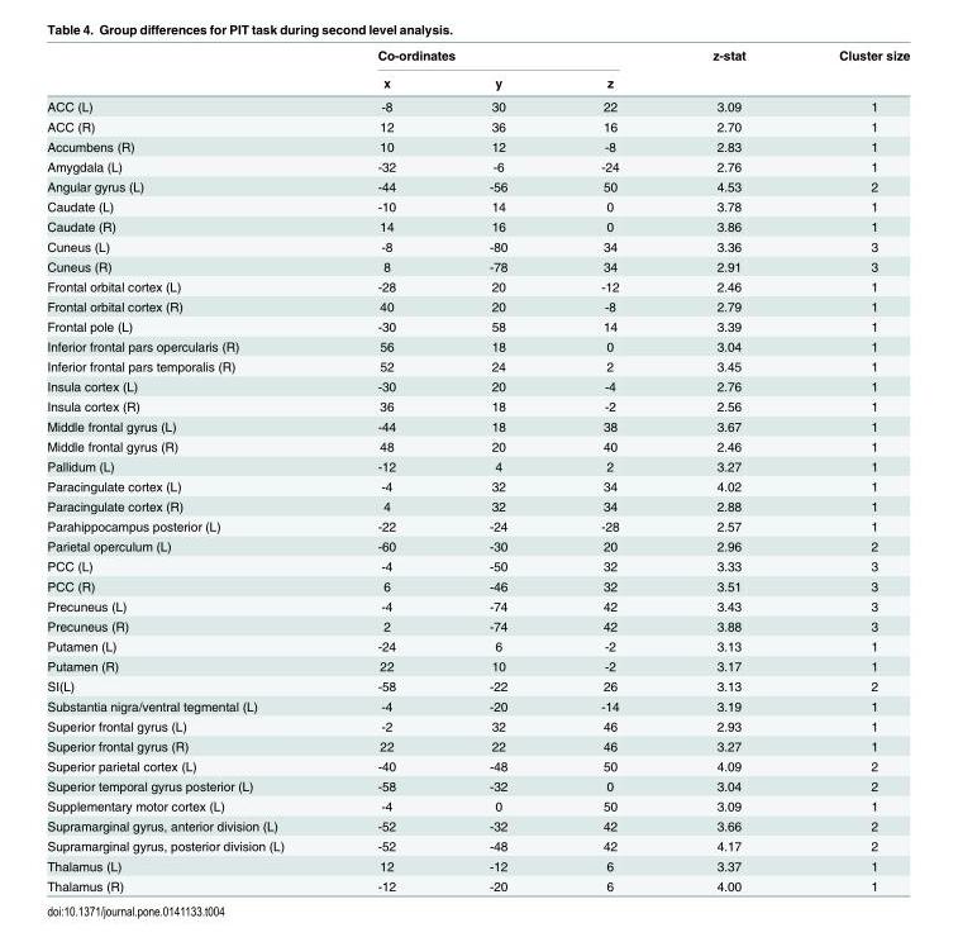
<table><thead><tr><td rowspan="2"></td><td colspan="3">Co-ordinates</td><td rowspan="2">z-stat</td><td rowspan="2">Cluster size</td></tr><tr><td>x</td><td>y</td><td>z</td></tr></thead><tbody><tr><td>ACC (L)</td><td>-8</td><td>30</td><td>22</td><td>3.09</td><td>1</td></tr><tr><td>ACC (R)</td><td>12</td><td>36</td><td>16</td><td>2.70</td><td>1</td></tr><tr><td>Accumbens (R)</td><td>10</td><td>12</td><td>-8</td><td>2.83</td><td>1</td></tr><tr><td>Amygdala (L)</td><td>-32</td><td>-6</td><td>-24</td><td>2.76</td><td>1</td></tr><tr><td>Angular gyrus (L)</td><td>-44</td><td>-56</td><td>50</td><td>4.53</td><td>2</td></tr><tr><td>Caudate (L)</td><td>-10</td><td>14</td><td>0</td><td>3.78</td><td>1</td></tr><tr><td>Caudate (R)</td><td>14</td><td>16</td><td>0</td><td>3.86</td><td>1</td></tr><tr><td>Cuneus (L)</td><td>-8</td><td>-80</td><td>34</td><td>3.36</td><td>3</td></tr><tr><td>Cuneus (R)</td><td>8</td><td>-78</td><td>34</td><td>2.91</td><td>3</td></tr><tr><td>Frontal orbital cortex (L)</td><td>-28</td><td>20</td><td>-12</td><td>2.46</td><td>1</td></tr><tr><td>Frontal orbital cortex (R)</td><td>40</td><td>20</td><td>-8</td><td>2.79</td><td>1</td></tr><tr><td>Frontal pole (L)</td><td>-30</td><td>58</td><td>14</td><td>3.39</td><td>1</td></tr><tr><td>Inferior frontal pars opercularis (R)</td><td>56</td><td>18</td><td>0</td><td>3.04</td><td>1</td></tr><tr><td>Inferior frontal pars temporalis (R)</td><td>52</td><td>24</td><td>2</td><td>3.45</td><td>1</td></tr><tr><td>Insula cortex (L)</td><td>-30</td><td>20</td><td>-4</td><td>2.76</td><td>1</td></tr><tr><td>Insula cortex (R)</td><td>36</td><td>18</td><td>-2</td><td>2.56</td><td>1</td></tr><tr><td>Middle frontal gyrus (L)</td><td>-44</td><td>18</td><td>38</td><td>3.67</td><td>1</td></tr><tr><td>Middle frontal gyrus (R)</td><td>48</td><td>20</td><td>40</td><td>2.46</td><td>1</td></tr><tr><td>Pallidum (L)</td><td>-12</td><td>4</td><td>2</td><td>3.27</td><td>1</td></tr><tr><td>Paracingulate cortex (L)</td><td>-4</td><td>32</td><td>34</td><td>4.02</td><td>1</td></tr><tr><td>Paracingulate cortex (R)</td><td>4</td><td>32</td><td>34</td><td>2.88</td><td>1</td></tr><tr><td>Parahippocampus posterior (L)</td><td>-22</td><td>-24</td><td>-28</td><td>2.57</td><td>1</td></tr><tr><td>Parietal operculum (L)</td><td>-60</td><td>-30</td><td>20</td><td>2.96</td><td>2</td></tr><tr><td>PCC (L)</td><td>-4</td><td>-50</td><td>32</td><td>3.33</td><td>3</td></tr><tr><td>PCC (R)</td><td>6</td><td>-46</td><td>32</td><td>3.51</td><td>3</td></tr><tr><td>Precuneus (L)</td><td>-4</td><td>-74</td><td>42</td><td>3.43</td><td>3</td></tr><tr><td>Precuneus (R)</td><td>2</td><td>-74</td><td>42</td><td>3.88</td><td>3</td></tr><tr><td>Putamen (L)</td><td>-24</td><td>6</td><td>-2</td><td>3.13</td><td>1</td></tr><tr><td>Putamen (R)</td><td>22</td><td>10</td><td>-2</td><td>3.17</td><td>1</td></tr><tr><td>SI(L)</td><td>-58</td><td>-22</td><td>26</td><td>3.13</td><td>2</td></tr><tr><td>Substantia nigra/ventral tegmental (L)</td><td>-4</td><td>-20</td><td>-14</td><td>3.19</td><td>1</td></tr><tr><td>Superior frontal gyrus (L)</td><td>-2</td><td>32</td><td>46</td><td>2.93</td><td>1</td></tr><tr><td>Superior frontal gyrus (R)</td><td>22</td><td>22</td><td>46</td><td>3.27</td><td>1</td></tr><tr><td>Superior parietal cortex (L)</td><td>-40</td><td>-48</td><td>50</td><td>4.09</td><td>2</td></tr><tr><td>Superior temporal gyrus posterior (L)</td><td>-58</td><td>-32</td><td>0</td><td>3.04</td><td>2</td></tr><tr><td>Supplementary motor cortex (L)</td><td>-4</td><td>0</td><td>50</td><td>3.09</td><td>1</td></tr><tr><td>Supramarginal gyrus, anterior division (L)</td><td>-52</td><td>-32</td><td>42</td><td>3.66</td><td>2</td></tr><tr><td>Supramarginal gyrus, posterior division (L)</td><td>-52</td><td>-48</td><td>42</td><td>4.17</td><td>2</td></tr><tr><td>Thalamus (L)</td><td>12</td><td>-12</td><td>6</td><td>3.37</td><td>1</td></tr><tr><td>Thalamus (R)</td><td>-12</td><td>-20</td><td>6</td><td>4.00</td><td>1</td></tr></tbody></table>